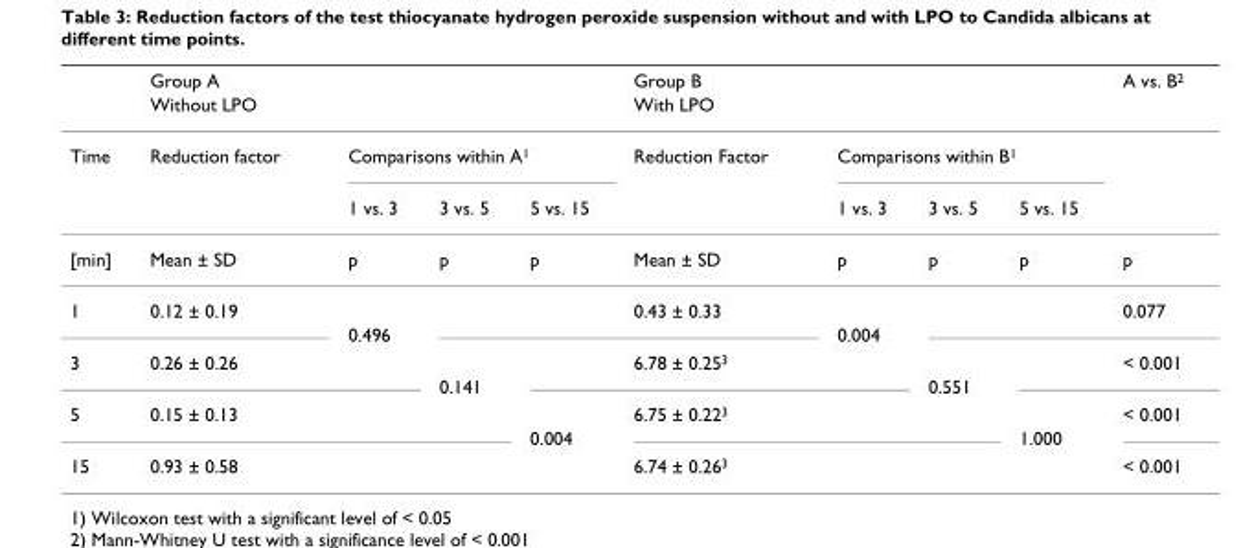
<table><thead><tr><td rowspan="4">Time</td><td rowspan="2" colspan="4">Group A Without LPO</td><td rowspan="2" colspan="4">Group B With LPO</td><td rowspan="4">A vs. B2</td></tr><tr></tr><tr><td rowspan="2">Reduction factor</td><td colspan="3">Comparisons within A1</td><td rowspan="2">Reduction Factor</td><td colspan="3">Comparisons within B1</td></tr><tr><td>1 vs. 3</td><td>3 vs. 5</td><td>5 vs. 15</td><td>1 vs. 3</td><td>3 vs. 5</td><td>5 vs. 15</td></tr></thead><tbody><tr><td>[min]</td><td>Mean ± SD</td><td>p</td><td>p</td><td>p</td><td>Mean ± SD</td><td>p</td><td>p</td><td>p</td><td>p</td></tr><tr><td>1</td><td>0.12 ± 0.19</td><td></td><td></td><td></td><td>0.43 ± 0.33</td><td></td><td></td><td></td><td>0.077</td></tr><tr><td colspan="2"></td><td>0.496</td><td colspan="3"></td><td>0.004</td><td colspan="3"></td></tr><tr><td>3</td><td>0.26 ± 0.26</td><td></td><td></td><td></td><td>6.78 ± 0.25<sup>3</sup></td><td></td><td></td><td></td><td>&lt; 0.001</td></tr><tr><td colspan="3"></td><td>0.141</td><td colspan="3"></td><td>0.551</td><td colspan="2"></td></tr><tr><td>5</td><td>0.15 ± 0.13</td><td></td><td></td><td></td><td>6.75 ± 0.22<sup>3</sup></td><td></td><td></td><td></td><td>&lt; 0.001</td></tr><tr><td colspan="4"></td><td>0.004</td><td colspan="3"></td><td>1.000</td><td></td></tr><tr><td>15</td><td>0.93 ± 0.58</td><td></td><td></td><td></td><td>6.74 ± 0.26<sup>3</sup></td><td></td><td></td><td></td><td>&lt; 0.001</td></tr></tbody></table>